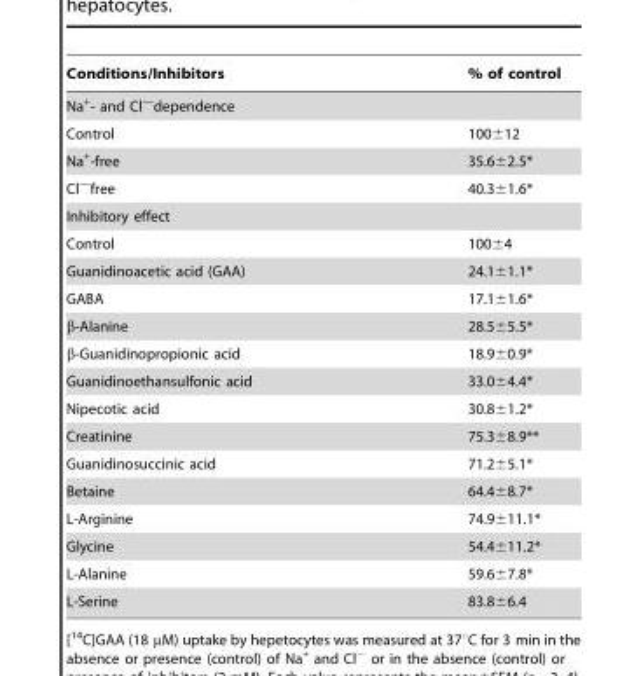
<table><thead><tr><td>Conditions/Inhibitors</td><td>% of control</td></tr></thead><tbody><tr><td colspan="2">Na<sup>+</sup>- and Cl<sup>—</sup>dependence</td></tr><tr><td>Control</td><td>100±12</td></tr><tr><td>Na<sup>+</sup>-free</td><td>35.6±2.5*</td></tr><tr><td>Cl<sup>—</sup>free</td><td>40.3±1.6*</td></tr><tr><td colspan="2">Inhibitory effect</td></tr><tr><td>Control</td><td>100±4</td></tr><tr><td>Guanidinoacetic acid (GAA)</td><td>24.1±1.1*</td></tr><tr><td>GABA</td><td>17.1±1.6*</td></tr><tr><td>β-Alanine</td><td>28.5±5.5*</td></tr><tr><td>β-Guanidinopropionic acid</td><td>18.9±0.9*</td></tr><tr><td>Guanidinoethansulfonic acid</td><td>33.0±4.4*</td></tr><tr><td>Nipecotic acid</td><td>30.8±1.2*</td></tr><tr><td>Creatinine</td><td>75.3±8.9**</td></tr><tr><td>Guanidinosuccinic acid</td><td>71.2±5.1*</td></tr><tr><td>Betaine</td><td>64.4±8.7*</td></tr><tr><td>L-Arginine</td><td>74.9±11.1*</td></tr><tr><td>Glycine</td><td>54.4±11.2*</td></tr><tr><td>L-Alanine</td><td>59.6±7.8*</td></tr><tr><td>L-Serine</td><td>83.8±6.4</td></tr></tbody></table>